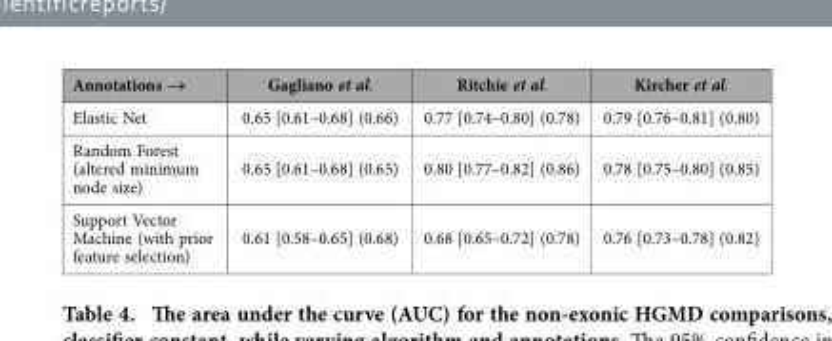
<table><thead><tr><td>Annotations →</td><td>Gagliano et al.</td><td>Ritchie et al.</td><td>Kircher et al.</td></tr></thead><tbody><tr><td>Elastic Net</td><td>0.65 [0.61–0.68] (0.66)</td><td>0.77 [0.74–0.80] (0.78)</td><td>0.79 [0.76–0.81] (0.80)</td></tr><tr><td>Random Forest (altered minimum node size)</td><td>0.65 [0.61–0.68] (0.65)</td><td>0.80 [0.77–0.82] (0.86)</td><td>0.78 [0.75–0.80] (0.85)</td></tr><tr><td>Support Vector Machine (with prior feature selection)</td><td>0.61 [0.58–0.65] (0.68)</td><td>0.68 [0.65–0.72] (0.78)</td><td>0.76 [0.73–0.78] (0.82)</td></tr></tbody></table>